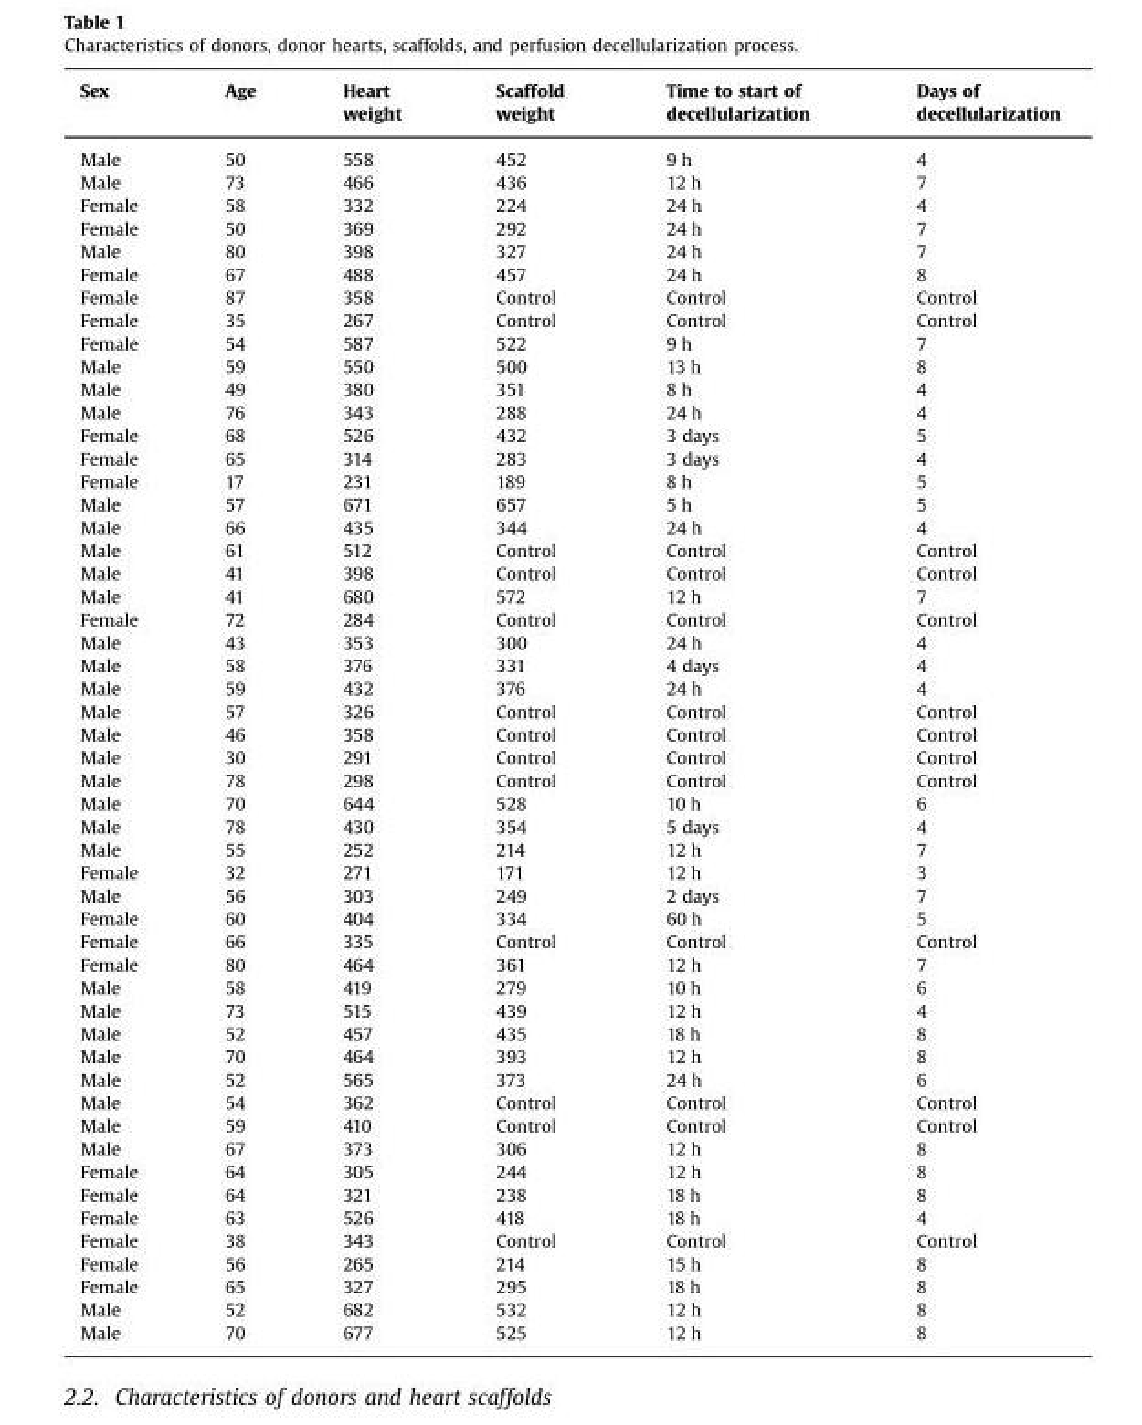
<table><thead><tr><td>Sex</td><td>Age</td><td>Heart weight</td><td>Scaffold weight</td><td>Time to start of decellularization</td><td>Days of decellularization</td></tr></thead><tbody><tr><td>Male</td><td>50</td><td>558</td><td>452</td><td>9 h</td><td>4</td></tr><tr><td>Male</td><td>73</td><td>466</td><td>436</td><td>12 h</td><td>7</td></tr><tr><td>Female</td><td>58</td><td>332</td><td>224</td><td>24 h</td><td>4</td></tr><tr><td>Female</td><td>50</td><td>369</td><td>292</td><td>24 h</td><td>7</td></tr><tr><td>Male</td><td>80</td><td>398</td><td>327</td><td>24 h</td><td>7</td></tr><tr><td>Female</td><td>67</td><td>488</td><td>457</td><td>24 h</td><td>8</td></tr><tr><td>Female</td><td>87</td><td>358</td><td>Control</td><td>Control</td><td>Control</td></tr><tr><td>Female</td><td>35</td><td>267</td><td>Control</td><td>Control</td><td>Control</td></tr><tr><td>Female</td><td>54</td><td>587</td><td>522</td><td>9 h</td><td>7</td></tr><tr><td>Male</td><td>59</td><td>550</td><td>500</td><td>13 h</td><td>8</td></tr><tr><td>Male</td><td>49</td><td>380</td><td>351</td><td>8 h</td><td>4</td></tr><tr><td>Male</td><td>76</td><td>343</td><td>288</td><td>24 h</td><td>4</td></tr><tr><td>Female</td><td>68</td><td>526</td><td>432</td><td>3 days</td><td>5</td></tr><tr><td>Female</td><td>65</td><td>314</td><td>283</td><td>3 days</td><td>4</td></tr><tr><td>Female</td><td>17</td><td>231</td><td>189</td><td>8 h</td><td>5</td></tr><tr><td>Male</td><td>57</td><td>671</td><td>657</td><td>5 h</td><td>5</td></tr><tr><td>Male</td><td>66</td><td>435</td><td>344</td><td>24 h</td><td>4</td></tr><tr><td>Male</td><td>61</td><td>512</td><td>Control</td><td>Control</td><td>Control</td></tr><tr><td>Male</td><td>41</td><td>398</td><td>Control</td><td>Control</td><td>Control</td></tr><tr><td>Male</td><td>41</td><td>680</td><td>572</td><td>12 h</td><td>7</td></tr><tr><td>Female</td><td>72</td><td>284</td><td>Control</td><td>Control</td><td>Control</td></tr><tr><td>Male</td><td>43</td><td>353</td><td>300</td><td>24 h</td><td>4</td></tr><tr><td>Male</td><td>58</td><td>376</td><td>331</td><td>4 days</td><td>4</td></tr><tr><td>Male</td><td>59</td><td>432</td><td>376</td><td>24 h</td><td>4</td></tr><tr><td>Male</td><td>57</td><td>326</td><td>Control</td><td>Control</td><td>Control</td></tr><tr><td>Male</td><td>46</td><td>358</td><td>Control</td><td>Control</td><td>Control</td></tr><tr><td>Male</td><td>30</td><td>291</td><td>Control</td><td>Control</td><td>Control</td></tr><tr><td>Male</td><td>78</td><td>298</td><td>Control</td><td>Control</td><td>Control</td></tr><tr><td>Male</td><td>70</td><td>644</td><td>528</td><td>10 h</td><td>6</td></tr><tr><td>Male</td><td>78</td><td>430</td><td>354</td><td>5 days</td><td>4</td></tr><tr><td>Male</td><td>55</td><td>252</td><td>214</td><td>12 h</td><td>7</td></tr><tr><td>Female</td><td>32</td><td>271</td><td>171</td><td>12 h</td><td>3</td></tr><tr><td>Male</td><td>56</td><td>303</td><td>249</td><td>2 days</td><td>7</td></tr><tr><td>Female</td><td>60</td><td>404</td><td>334</td><td>60 h</td><td>5</td></tr><tr><td>Female</td><td>66</td><td>335</td><td>Control</td><td>Control</td><td>Control</td></tr><tr><td>Female</td><td>80</td><td>464</td><td>361</td><td>12 h</td><td>7</td></tr><tr><td>Male</td><td>58</td><td>419</td><td>279</td><td>10 h</td><td>6</td></tr><tr><td>Male</td><td>73</td><td>515</td><td>439</td><td>12 h</td><td>4</td></tr><tr><td>Male</td><td>52</td><td>457</td><td>435</td><td>18 h</td><td>8</td></tr><tr><td>Male</td><td>70</td><td>464</td><td>393</td><td>12 h</td><td>8</td></tr><tr><td>Male</td><td>52</td><td>565</td><td>373</td><td>24 h</td><td>6</td></tr><tr><td>Male</td><td>54</td><td>362</td><td>Control</td><td>Control</td><td>Control</td></tr><tr><td>Male</td><td>59</td><td>410</td><td>Control</td><td>Control</td><td>Control</td></tr><tr><td>Male</td><td>67</td><td>373</td><td>306</td><td>12 h</td><td>8</td></tr><tr><td>Female</td><td>64</td><td>305</td><td>244</td><td>12 h</td><td>8</td></tr><tr><td>Female</td><td>64</td><td>321</td><td>238</td><td>18 h</td><td>8</td></tr><tr><td>Female</td><td>63</td><td>526</td><td>418</td><td>18 h</td><td>4</td></tr><tr><td>Female</td><td>38</td><td>343</td><td>Control</td><td>Control</td><td>Control</td></tr><tr><td>Female</td><td>56</td><td>265</td><td>214</td><td>15 h</td><td>8</td></tr><tr><td>Female</td><td>65</td><td>327</td><td>295</td><td>18 h</td><td>8</td></tr><tr><td>Male</td><td>52</td><td>682</td><td>532</td><td>12 h</td><td>8</td></tr><tr><td>Male</td><td>70</td><td>677</td><td>525</td><td>12 h</td><td>8</td></tr></tbody></table>